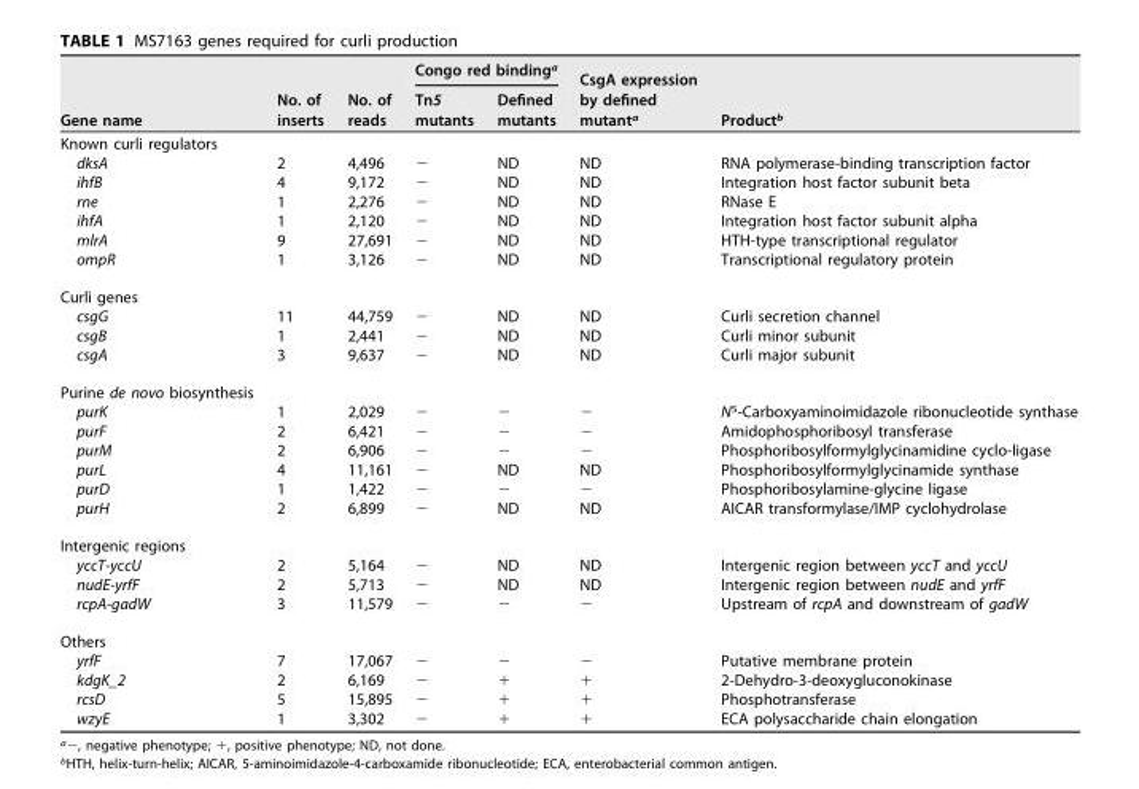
<table><thead><tr><td rowspan="2">Gene name</td><td rowspan="2">No. of inserts</td><td rowspan="2">No. of reads</td><td colspan="2">Congo red binding<sup>a</sup></td><td rowspan="2">CsgA expression by defined mutant<sup>a</sup></td><td rowspan="2">Product<sup>b</sup></td></tr><tr><td>Tn5 mutants</td><td>Defined mutants</td></tr></thead><tbody><tr><td colspan="7">Known curli regulators</td></tr><tr><td>dksA</td><td>2</td><td>4,496</td><td>−</td><td>ND</td><td>ND</td><td>RNA polymerase-binding transcription factor</td></tr><tr><td>ihfB</td><td>4</td><td>9,172</td><td>−</td><td>ND</td><td>ND</td><td>Integration host factor subunit beta</td></tr><tr><td>rne</td><td>1</td><td>2,276</td><td>−</td><td>ND</td><td>ND</td><td>RNase E</td></tr><tr><td>ihfA</td><td>1</td><td>2,120</td><td>−</td><td>ND</td><td>ND</td><td>Integration host factor subunit alpha</td></tr><tr><td>mlrA</td><td>9</td><td>27,691</td><td>−</td><td>ND</td><td>ND</td><td>HTH-type transcriptional regulator</td></tr><tr><td>ompR</td><td>1</td><td>3,126</td><td>−</td><td>ND</td><td>ND</td><td>Transcriptional regulatory protein</td></tr><tr><td colspan="7">Curli genes</td></tr><tr><td>csgG</td><td>11</td><td>44,759</td><td>−</td><td>ND</td><td>ND</td><td>Curli secretion channel</td></tr><tr><td>csgB</td><td>1</td><td>2,441</td><td>−</td><td>ND</td><td>ND</td><td>Curli minor subunit</td></tr><tr><td>csgA</td><td>3</td><td>9,637</td><td>−</td><td>ND</td><td>ND</td><td>Curli major subunit</td></tr><tr><td colspan="7">Purine de novo biosynthesis</td></tr><tr><td>purK</td><td>1</td><td>2,029</td><td>−</td><td>−</td><td>−</td><td>N<sup>5</sup>-Carboxyaminoimidazole ribonucleotide synthase</td></tr><tr><td>purF</td><td>2</td><td>6,421</td><td>−</td><td>−</td><td>−</td><td>Amidophosphoribosyl transferase</td></tr><tr><td>purM</td><td>2</td><td>6,906</td><td>−</td><td>−</td><td>−</td><td>Phosphoribosylformylglycinamidine cyclo-ligase</td></tr><tr><td>purL</td><td>4</td><td>11,161</td><td>−</td><td>ND</td><td>ND</td><td>Phosphoribosylformylglycinamide synthase</td></tr><tr><td>purD</td><td>1</td><td>1,422</td><td>−</td><td>−</td><td>−</td><td>Phosphoribosylamine-glycine ligase</td></tr><tr><td>purH</td><td>2</td><td>6,899</td><td>−</td><td>ND</td><td>ND</td><td>AICAR transformylase/IMP cyclohydrolase</td></tr><tr><td colspan="7">Intergenic regions</td></tr><tr><td>yccT-yccU</td><td>2</td><td>5,164</td><td>−</td><td>ND</td><td>ND</td><td>Intergenic region between yccT and yccU</td></tr><tr><td>nudE-yrfF</td><td>2</td><td>5,713</td><td>−</td><td>ND</td><td>ND</td><td>Intergenic region between nudE and yrfF</td></tr><tr><td>rcpA-gadW</td><td>3</td><td>11,579</td><td>−</td><td>−</td><td>−</td><td>Upstream of rcpA and downstream of gadW</td></tr><tr><td colspan="7">Others</td></tr><tr><td>yrfF</td><td>7</td><td>17,067</td><td>−</td><td>−</td><td>−</td><td>Putative membrane protein</td></tr><tr><td>kdgK_2</td><td>2</td><td>6,169</td><td>−</td><td>+</td><td>+</td><td>2-Dehydro-3-deoxygluconokinase</td></tr><tr><td>rcsD</td><td>5</td><td>15,895</td><td>−</td><td>+</td><td>+</td><td>Phosphotransferase</td></tr><tr><td>wzyE</td><td>1</td><td>3,302</td><td>−</td><td>+</td><td>+</td><td>ECA polysaccharide chain elongation</td></tr></tbody></table>